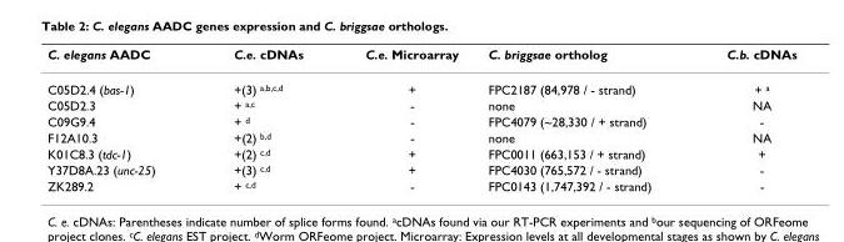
<table><thead><tr><td>C. elegans AADC</td><td>C.e. cDNAs</td><td>C.e. Microarray</td><td>C. briggsae ortholog</td><td>C.b. cDNAs</td></tr></thead><tbody><tr><td>C05D2.4 (bas-1)</td><td>+(3) <sup>a,b,c,d</sup></td><td>+</td><td>FPC2187 (84,978 / - strand)</td><td>+ <sup>a</sup></td></tr><tr><td>C05D2.3</td><td>+ <sup>a,c</sup></td><td>-</td><td>none</td><td>NA</td></tr><tr><td>C09G9.4</td><td>+ <sup>d</sup></td><td>-</td><td>FPC4079 (~28,330 / + strand)</td><td>-</td></tr><tr><td>F12A10.3</td><td>+(2) <sup>b,d</sup></td><td>-</td><td>none</td><td>NA</td></tr><tr><td>K01C8.3 (tdc-1)</td><td>+(2) <sup>c,d</sup></td><td>+</td><td>FPC0011 (663,153 / + strand)</td><td>+</td></tr><tr><td>Y37D8A.23 (unc-25)</td><td>+(3) <sup>c,d</sup></td><td>+</td><td>FPC4030 (765,572 / - strand)</td><td>-</td></tr><tr><td>ZK289.2</td><td>+ <sup>c,d</sup></td><td>-</td><td>FPC0143 (1,747,392 / - strand)</td><td>-</td></tr></tbody></table>